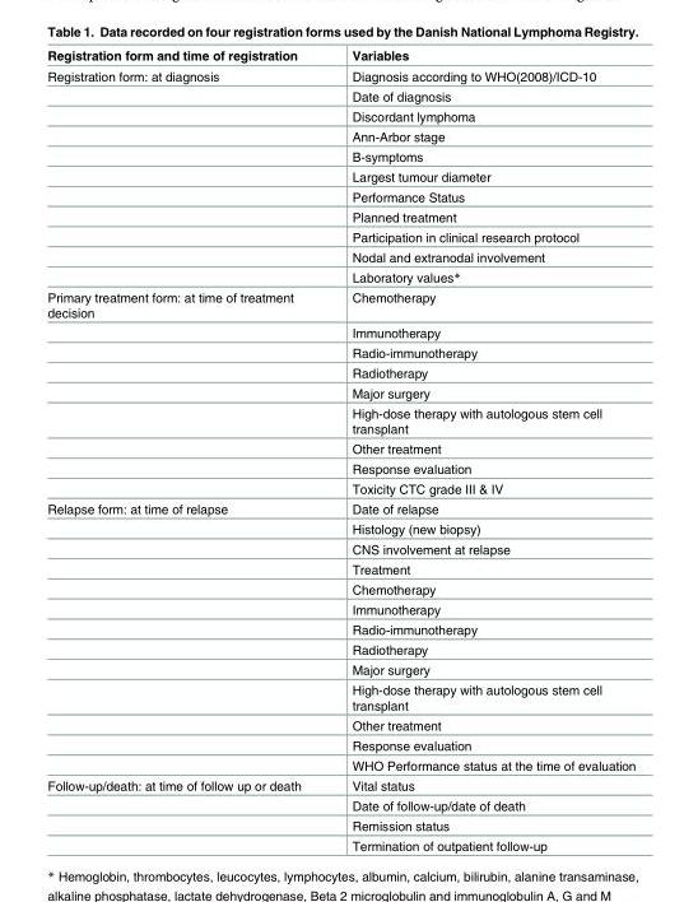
<table><thead><tr><td>Registration form and time of registration</td><td>Variables</td></tr></thead><tbody><tr><td rowspan="11">Registration form: at diagnosis</td><td>Diagnosis according to WHO(2008)/ICD-10</td></tr><tr><td>Date of diagnosis</td></tr><tr><td>Discordant lymphoma</td></tr><tr><td>Ann-Arbor stage</td></tr><tr><td>B-symptoms</td></tr><tr><td>Largest tumour diameter</td></tr><tr><td>Performance Status</td></tr><tr><td>Planned treatment</td></tr><tr><td>Participation in clinical research protocol</td></tr><tr><td>Nodal and extranodal involvement</td></tr><tr><td>Laboratory values*</td></tr><tr><td rowspan="9">Primary treatment form: at time of treatment decision</td><td>Chemotherapy</td></tr><tr><td>Immunotherapy</td></tr><tr><td>Radio-immunotherapy</td></tr><tr><td>Radiotherapy</td></tr><tr><td>Major surgery</td></tr><tr><td>High-dose therapy with autologous stem cell transplant</td></tr><tr><td>Other treatment</td></tr><tr><td>Response evaluation</td></tr><tr><td>Toxicity CTC grade III &amp; IV</td></tr><tr><td rowspan="13">Relapse form: at time of relapse</td><td>Date of relapse</td></tr><tr><td>Histology (new biopsy)</td></tr><tr><td>CNS involvement at relapse</td></tr><tr><td>Treatment</td></tr><tr><td>Chemotherapy</td></tr><tr><td>Immunotherapy</td></tr><tr><td>Radio-immunotherapy</td></tr><tr><td>Radiotherapy</td></tr><tr><td>Major surgery</td></tr><tr><td>High-dose therapy with autologous stem cell transplant</td></tr><tr><td>Other treatment</td></tr><tr><td>Response evaluation</td></tr><tr><td>WHO Performance status at the time of evaluation</td></tr><tr><td rowspan="4">Follow-up/death: at time of follow up or death</td><td>Vital status</td></tr><tr><td>Date of follow-up/date of death</td></tr><tr><td>Remission status</td></tr><tr><td>Termination of outpatient follow-up</td></tr></tbody></table>